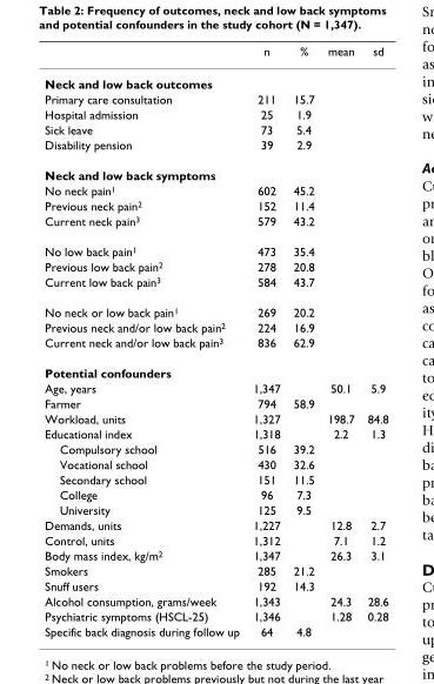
<table><thead><tr><td></td><td>n</td><td>%</td><td>mean</td><td>sd</td></tr></thead><tbody><tr><td colspan="5">Neck and low back outcomes</td></tr><tr><td>Primary care consultation</td><td>211</td><td>15.7</td><td></td><td></td></tr><tr><td>Hospital admission</td><td>25</td><td>1.9</td><td></td><td></td></tr><tr><td>Sick leave</td><td>73</td><td>5.4</td><td></td><td></td></tr><tr><td>Disability pension</td><td>39</td><td>2.9</td><td></td><td></td></tr><tr><td colspan="5">Neck and low back symptoms</td></tr><tr><td>No neck pain1</td><td>602</td><td>45.2</td><td></td><td></td></tr><tr><td>Previous neck pain2</td><td>152</td><td>11.4</td><td></td><td></td></tr><tr><td>Current neck pain3</td><td>579</td><td>43.2</td><td></td><td></td></tr><tr><td>No low back pain1</td><td>473</td><td>35.4</td><td></td><td></td></tr><tr><td>Previous low back pain2</td><td>278</td><td>20.8</td><td></td><td></td></tr><tr><td>Current low back pain3</td><td>584</td><td>43.7</td><td></td><td></td></tr><tr><td>No neck or low back pain1</td><td>269</td><td>20.2</td><td></td><td></td></tr><tr><td>Previous neck and/or low back pain2</td><td>224</td><td>16.9</td><td></td><td></td></tr><tr><td>Current neck and/or low back pain3</td><td>836</td><td>62.9</td><td></td><td></td></tr><tr><td colspan="5">Potential confounders</td></tr><tr><td>Age, years</td><td>1,347</td><td></td><td>50.1</td><td>5.9</td></tr><tr><td>Farmer</td><td>794</td><td>58.9</td><td></td><td></td></tr><tr><td>Workload, units</td><td>1,327</td><td></td><td>198.7</td><td>84.8</td></tr><tr><td>Educational index</td><td>1,318</td><td></td><td>2.2</td><td>1.3</td></tr><tr><td>Compulsory school</td><td>516</td><td>39.2</td><td></td><td></td></tr><tr><td>Vocational school</td><td>430</td><td>32.6</td><td></td><td></td></tr><tr><td>Secondary school</td><td>151</td><td>11.5</td><td></td><td></td></tr><tr><td>College</td><td>96</td><td>7.3</td><td></td><td></td></tr><tr><td>University</td><td>125</td><td>9.5</td><td></td><td></td></tr><tr><td>Demands, units</td><td>1,227</td><td></td><td>12.8</td><td>2.7</td></tr><tr><td>Control, units</td><td>1,312</td><td></td><td>7.1</td><td>1.2</td></tr><tr><td>Body mass index, kg/m2</td><td>1,347</td><td></td><td>26.3</td><td>3.1</td></tr><tr><td>Smokers</td><td>285</td><td>21.2</td><td></td><td></td></tr><tr><td>Snuff users</td><td>192</td><td>14.3</td><td></td><td></td></tr><tr><td>Alcohol consumption, grams/week</td><td>1,343</td><td></td><td>24.3</td><td>28.6</td></tr><tr><td>Psychiatric symptoms (HSCL-25)</td><td>1,346</td><td></td><td>1.28</td><td>0.28</td></tr><tr><td>Specific back diagnosis during follow up</td><td>64</td><td>4.8</td><td></td><td></td></tr></tbody></table>